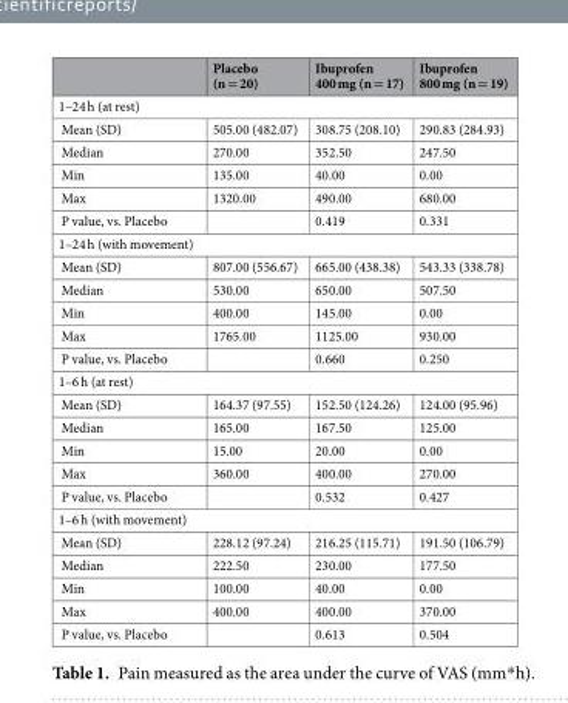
<table><thead><tr><td></td><td>Placebo (n = 20)</td><td>Ibuprofen 400 mg (n = 17)</td><td>Ibuprofen 800 mg (n = 19)</td></tr></thead><tbody><tr><td colspan="4">1–24 h (at rest)</td></tr><tr><td>Mean (SD)</td><td>505.00 (482.07)</td><td>308.75 (208.10)</td><td>290.83 (284.93)</td></tr><tr><td>Median</td><td>270.00</td><td>352.50</td><td>247.50</td></tr><tr><td>Min</td><td>135.00</td><td>40.00</td><td>0.00</td></tr><tr><td>Max</td><td>1320.00</td><td>490.00</td><td>680.00</td></tr><tr><td>P value, vs. Placebo</td><td></td><td>0.419</td><td>0.331</td></tr><tr><td colspan="4">1–24 h (with movement)</td></tr><tr><td>Mean (SD)</td><td>807.00 (556.67)</td><td>665.00 (438.38)</td><td>543.33 (338.78)</td></tr><tr><td>Median</td><td>530.00</td><td>650.00</td><td>507.50</td></tr><tr><td>Min</td><td>400.00</td><td>145.00</td><td>0.00</td></tr><tr><td>Max</td><td>1765.00</td><td>1125.00</td><td>930.00</td></tr><tr><td>P value, vs. Placebo</td><td></td><td>0.660</td><td>0.250</td></tr><tr><td colspan="4">1–6 h (at rest)</td></tr><tr><td>Mean (SD)</td><td>164.37 (97.55)</td><td>152.50 (124.26)</td><td>124.00 (95.96)</td></tr><tr><td>Median</td><td>165.00</td><td>167.50</td><td>125.00</td></tr><tr><td>Min</td><td>15.00</td><td>20.00</td><td>0.00</td></tr><tr><td>Max</td><td>360.00</td><td>400.00</td><td>270.00</td></tr><tr><td>P value, vs. Placebo</td><td></td><td>0.532</td><td>0.427</td></tr><tr><td colspan="4">1–6 h (with movement)</td></tr><tr><td>Mean (SD)</td><td>228.12 (97.24)</td><td>216.25 (115.71)</td><td>191.50 (106.79)</td></tr><tr><td>Median</td><td>222.50</td><td>230.00</td><td>177.50</td></tr><tr><td>Min</td><td>100.00</td><td>40.00</td><td>0.00</td></tr><tr><td>Max</td><td>400.00</td><td>400.00</td><td>370.00</td></tr><tr><td>P value, vs. Placebo</td><td></td><td>0.613</td><td>0.504</td></tr></tbody></table>